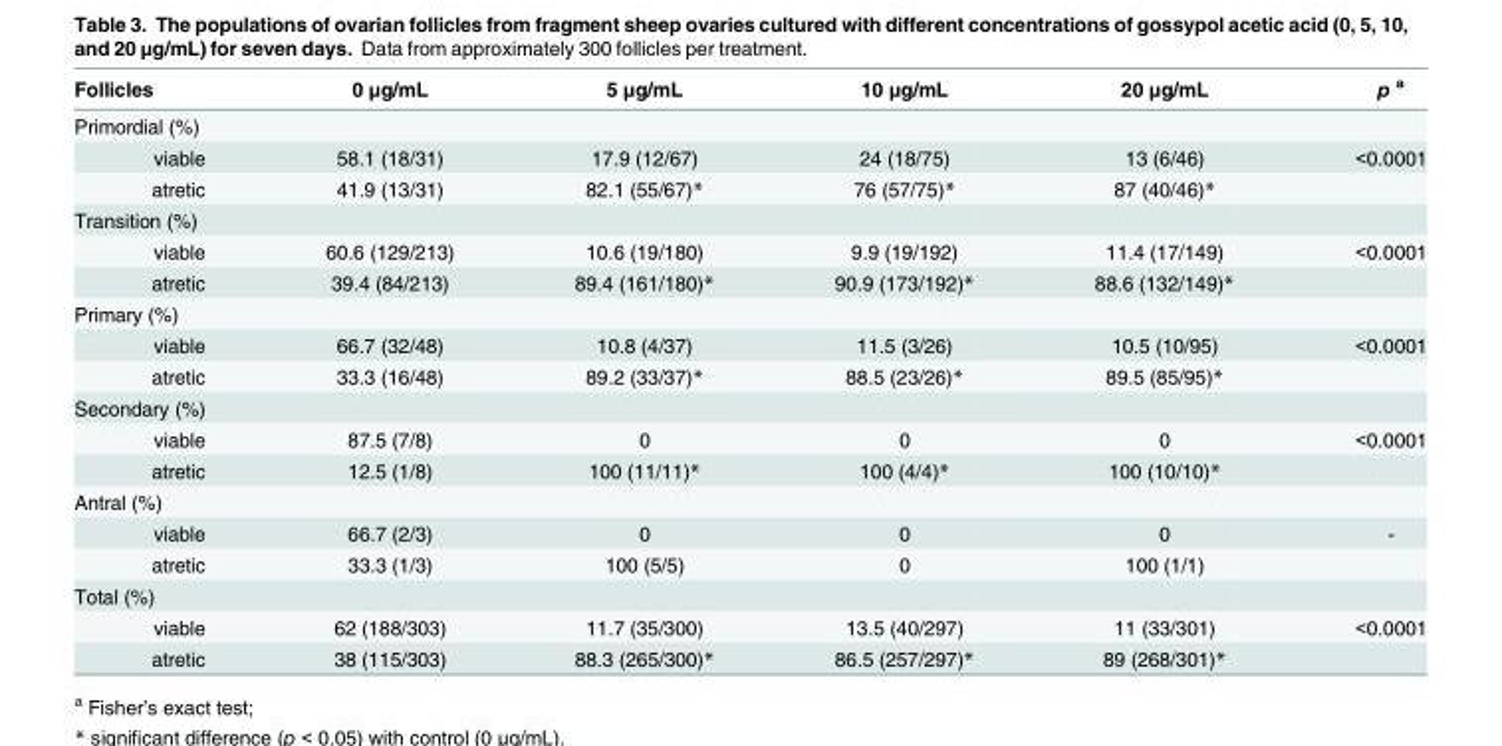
<table><thead><tr><td>Follicles</td><td>0 μg/mL</td><td>5 μg/mL</td><td>10 μg/mL</td><td>20 μg/mL</td><td>p <sup>a</sup></td></tr></thead><tbody><tr><td colspan="6">Primordial (%)</td></tr><tr><td>viable</td><td>58.1 (18/31)</td><td>17.9 (12/67)</td><td>24 (18/75)</td><td>13 (6/46)</td><td>&lt;0.0001</td></tr><tr><td>atretic</td><td>41.9 (13/31)</td><td>82.1 (55/67)*</td><td>76 (57/75)*</td><td>87 (40/46)*</td><td></td></tr><tr><td colspan="6">Transition (%)</td></tr><tr><td>viable</td><td>60.6 (129/213)</td><td>10.6 (19/180)</td><td>9.9 (19/192)</td><td>11.4 (17/149)</td><td>&lt;0.0001</td></tr><tr><td>atretic</td><td>39.4 (84/213)</td><td>89.4 (161/180)*</td><td>90.9 (173/192)*</td><td>88.6 (132/149)*</td><td></td></tr><tr><td colspan="6">Primary (%)</td></tr><tr><td>viable</td><td>66.7 (32/48)</td><td>10.8 (4/37)</td><td>11.5 (3/26)</td><td>10.5 (10/95)</td><td>&lt;0.0001</td></tr><tr><td>atretic</td><td>33.3 (16/48)</td><td>89.2 (33/37)*</td><td>88.5 (23/26)*</td><td>89.5 (85/95)*</td><td></td></tr><tr><td colspan="6">Secondary (%)</td></tr><tr><td>viable</td><td>87.5 (7/8)</td><td>0</td><td>0</td><td>0</td><td>&lt;0.0001</td></tr><tr><td>atretic</td><td>12.5 (1/8)</td><td>100 (11/11)*</td><td>100 (4/4)*</td><td>100 (10/10)*</td><td></td></tr><tr><td colspan="6">Antral (%)</td></tr><tr><td>viable</td><td>66.7 (2/3)</td><td>0</td><td>0</td><td>0</td><td>-</td></tr><tr><td>atretic</td><td>33.3 (1/3)</td><td>100 (5/5)</td><td>0</td><td>100 (1/1)</td><td></td></tr><tr><td colspan="6">Total (%)</td></tr><tr><td>viable</td><td>62 (188/303)</td><td>11.7 (35/300)</td><td>13.5 (40/297)</td><td>11 (33/301)</td><td>&lt;0.0001</td></tr><tr><td>atretic</td><td>38 (115/303)</td><td>88.3 (265/300)*</td><td>86.5 (257/297)*</td><td>89 (268/301)*</td><td></td></tr></tbody></table>